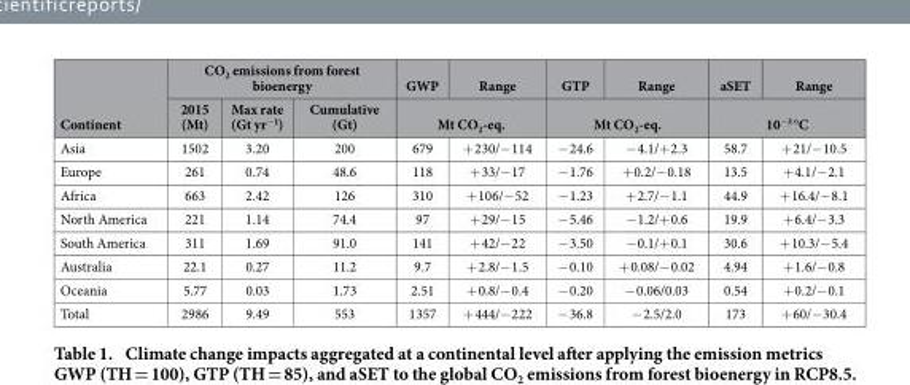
<table><thead><tr><td rowspan="2">Continent</td><td colspan="3">CO<sub>2</sub> emissions from forest bioenergy</td><td>GWP</td><td>Range</td><td>GTP</td><td>Range</td><td>aSET</td><td>Range</td></tr><tr><td>2015 (Mt)</td><td>Max rate (Gt yr<sup>−1</sup>)</td><td>Cumulative (Gt)</td><td colspan="2">Mt CO<sub>2</sub>-eq.</td><td colspan="2">Mt CO<sub>2</sub>-eq.</td><td colspan="2">10−3 °C</td></tr></thead><tbody><tr><td>Asia</td><td>1502</td><td>3.20</td><td>200</td><td>679</td><td>+ 230/− 114</td><td>− 24.6</td><td>− 4.1/+ 2.3</td><td>58.7</td><td>+ 21/− 10.5</td></tr><tr><td>Europe</td><td>261</td><td>0.74</td><td>48.6</td><td>118</td><td>+ 33/− 17</td><td>− 1.76</td><td>+ 0.2/− 0.18</td><td>13.5</td><td>+ 4.1/− 2.1</td></tr><tr><td>Africa</td><td>663</td><td>2.42</td><td>126</td><td>310</td><td>+ 106/− 52</td><td>− 1.23</td><td>+ 2.7/− 1.1</td><td>44.9</td><td>+ 16.4/− 8.1</td></tr><tr><td>North America</td><td>221</td><td>1.14</td><td>74.4</td><td>97</td><td>+ 29/− 15</td><td>− 5.46</td><td>− 1.2/+ 0.6</td><td>19.9</td><td>+ 6.4/− 3.3</td></tr><tr><td>South America</td><td>311</td><td>1.69</td><td>91.0</td><td>141</td><td>+ 42/− 22</td><td>− 3.50</td><td>− 0.1/+ 0.1</td><td>30.6</td><td>+ 10.3/− 5.4</td></tr><tr><td>Australia</td><td>22.1</td><td>0.27</td><td>11.2</td><td>9.7</td><td>+ 2.8/− 1.5</td><td>− 0.10</td><td>+ 0.08/− 0.02</td><td>4.94</td><td>+ 1.6/− 0.8</td></tr><tr><td>Oceania</td><td>5.77</td><td>0.03</td><td>1.73</td><td>2.51</td><td>+ 0.8/− 0.4</td><td>− 0.20</td><td>− 0.06/0.03</td><td>0.54</td><td>+ 0.2/− 0.1</td></tr><tr><td>Total</td><td>2986</td><td>9.49</td><td>553</td><td>1357</td><td>+ 444/− 222</td><td>− 36.8</td><td>− 2.5/2.0</td><td>173</td><td>+ 60/− 30.4</td></tr></tbody></table>